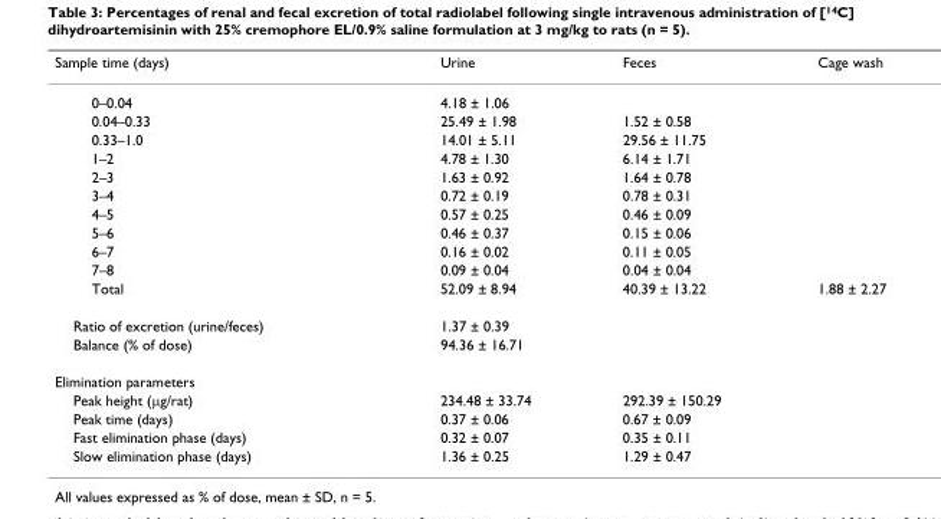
<table><thead><tr><td>Sample time (days)</td><td>Urine</td><td>Feces</td><td>Cage wash</td></tr></thead><tbody><tr><td>0–0.04</td><td>4.18 ± 1.06</td><td></td><td></td></tr><tr><td>0.04–0.33</td><td>25.49 ± 1.98</td><td>1.52 ± 0.58</td><td></td></tr><tr><td>0.33–1.0</td><td>14.01 ± 5.11</td><td>29.56 ± 11.75</td><td></td></tr><tr><td>1–2</td><td>4.78 ± 1.30</td><td>6.14 ± 1.71</td><td></td></tr><tr><td>2–3</td><td>1.63 ± 0.92</td><td>1.64 ± 0.78</td><td></td></tr><tr><td>3–4</td><td>0.72 ± 0.19</td><td>0.78 ± 0.31</td><td></td></tr><tr><td>4–5</td><td>0.57 ± 0.25</td><td>0.46 ± 0.09</td><td></td></tr><tr><td>5–6</td><td>0.46 ± 0.37</td><td>0.15 ± 0.06</td><td></td></tr><tr><td>6–7</td><td>0.16 ± 0.02</td><td>0.11 ± 0.05</td><td></td></tr><tr><td>7–8</td><td>0.09 ± 0.04</td><td>0.04 ± 0.04</td><td></td></tr><tr><td>Total</td><td>52.09 ± 8.94</td><td>40.39 ± 13.22</td><td>1.88 ± 2.27</td></tr><tr><td>Ratio of excretion (urine/feces)</td><td>1.37 ± 0.39</td><td></td><td></td></tr><tr><td>Balance (% of dose)</td><td>94.36 ± 16.71</td><td></td><td></td></tr><tr><td colspan="4">Elimination parameters</td></tr><tr><td>Peak height (μg/rat)</td><td>234.48 ± 33.74</td><td>292.39 ± 150.29</td><td></td></tr><tr><td>Peak time (days)</td><td>0.37 ± 0.06</td><td>0.67 ± 0.09</td><td></td></tr><tr><td>Fast elimination phase (days)</td><td>0.32 ± 0.07</td><td>0.35 ± 0.11</td><td></td></tr><tr><td>Slow elimination phase (days)</td><td>1.36 ± 0.25</td><td>1.29 ± 0.47</td><td></td></tr></tbody></table>